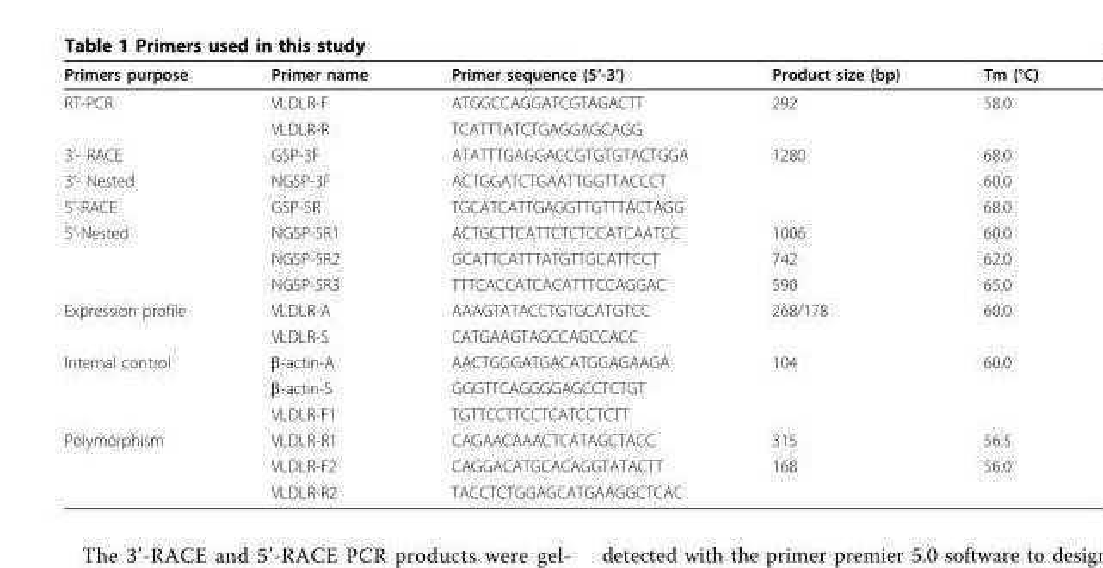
<table><thead><tr><td>Primers purpose</td><td>Primer name</td><td>Primer sequence (5’-3’)</td><td>Product size (bp)</td><td>Tm (°C)</td></tr></thead><tbody><tr><td rowspan="2">RT-PCR</td><td>VLDLR-F</td><td>ATGGCCAGGATCGTAGACTT</td><td>292</td><td>58.0</td></tr><tr><td>VLDLR-R</td><td>TCATTTATCTGAGGAGCAGG</td><td></td><td></td></tr><tr><td>3’- RACE</td><td>GSP-3F</td><td>ATATTTGAGGACCGTGTGTACTGGA</td><td>1280</td><td>68.0</td></tr><tr><td>3’- Nested</td><td>NGSP-3F</td><td>ACTGGATCTGAATTGGTTACCCT</td><td></td><td>60.0</td></tr><tr><td>5’-RACE</td><td>GSP-5R</td><td>TGCATCATTGAGGTTGTTTACTAGG</td><td></td><td>68.0</td></tr><tr><td rowspan="3">5’-Nested</td><td>NGSP-5R1</td><td>ACTGCTTCATTCTCTCCATCAATCC</td><td>1006</td><td>60.0</td></tr><tr><td>NGSP-5R2</td><td>GCATTCATTTATGTTGCATTCCT</td><td>742</td><td>62.0</td></tr><tr><td>NGSP-5R3</td><td>TTTCACCATCACATTTCCAGGAC</td><td>590</td><td>65.0</td></tr><tr><td rowspan="2">Expression profile</td><td>VLDLR-A</td><td>AAAGTATACCTGTGCATGTCC</td><td>268/178</td><td>60.0</td></tr><tr><td>VLDLR-S</td><td>CATGAAGTAGCCAGCCACC</td><td></td><td></td></tr><tr><td rowspan="3">Internal control</td><td>β-actin-A</td><td>AACTGGGATGACATGGAGAAGA</td><td>104</td><td>60.0</td></tr><tr><td>β-actin-S</td><td>GGGTTCAGGGGAGCCTCTGT</td><td></td><td></td></tr><tr><td>VLDLR-F1</td><td>TGTTCCTTCCTCATCCTCTT</td><td></td><td></td></tr><tr><td rowspan="3">Polymorphism</td><td>VLDLR-R1</td><td>CAGAACAAACTCATAGCTACC</td><td>315</td><td>56.5</td></tr><tr><td>VLDLR-F2</td><td>CAGGACATGCACAGGTATACTT</td><td>168</td><td>56.0</td></tr><tr><td>VLDLR-R2</td><td>TACCTCTGGAGCATGAAGGCTCAC</td><td></td><td></td></tr></tbody></table>